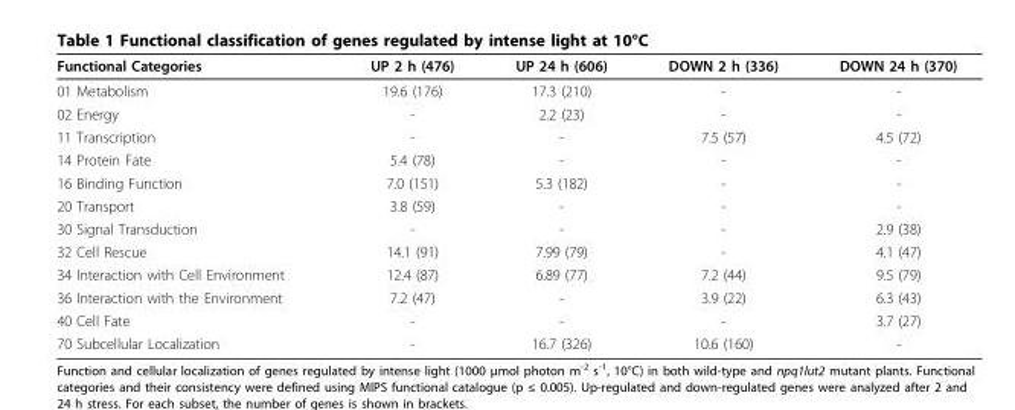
<table><thead><tr><td>Functional Categories</td><td>UP 2 h (476)</td><td>UP 24 h (606)</td><td>DOWN 2 h (336)</td><td>DOWN 24 h (370)</td></tr></thead><tbody><tr><td>01 Metabolism</td><td>19.6 (176)</td><td>17.3 (210)</td><td>-</td><td>-</td></tr><tr><td>02 Energy</td><td>-</td><td>2.2 (23)</td><td>-</td><td>-</td></tr><tr><td>11 Transcription</td><td>-</td><td>-</td><td>7.5 (57)</td><td>4.5 (72)</td></tr><tr><td>14 Protein Fate</td><td>5.4 (78)</td><td>-</td><td>-</td><td>-</td></tr><tr><td>16 Binding Function</td><td>7.0 (151)</td><td>5.3 (182)</td><td>-</td><td>-</td></tr><tr><td>20 Transport</td><td>3.8 (59)</td><td>-</td><td>-</td><td>-</td></tr><tr><td>30 Signal Transduction</td><td>-</td><td>-</td><td>-</td><td>2.9 (38)</td></tr><tr><td>32 Cell Rescue</td><td>14.1 (91)</td><td>7.99 (79)</td><td>-</td><td>4.1 (47)</td></tr><tr><td>34 Interaction with Cell Environment</td><td>12.4 (87)</td><td>6.89 (77)</td><td>7.2 (44)</td><td>9.5 (79)</td></tr><tr><td>36 Interaction with the Environment</td><td>7.2 (47)</td><td>-</td><td>3.9 (22)</td><td>6.3 (43)</td></tr><tr><td>40 Cell Fate</td><td>-</td><td>-</td><td>-</td><td>3.7 (27)</td></tr><tr><td>70 Subcellular Localization</td><td>-</td><td>16.7 (326)</td><td>10.6 (160)</td><td>-</td></tr></tbody></table>